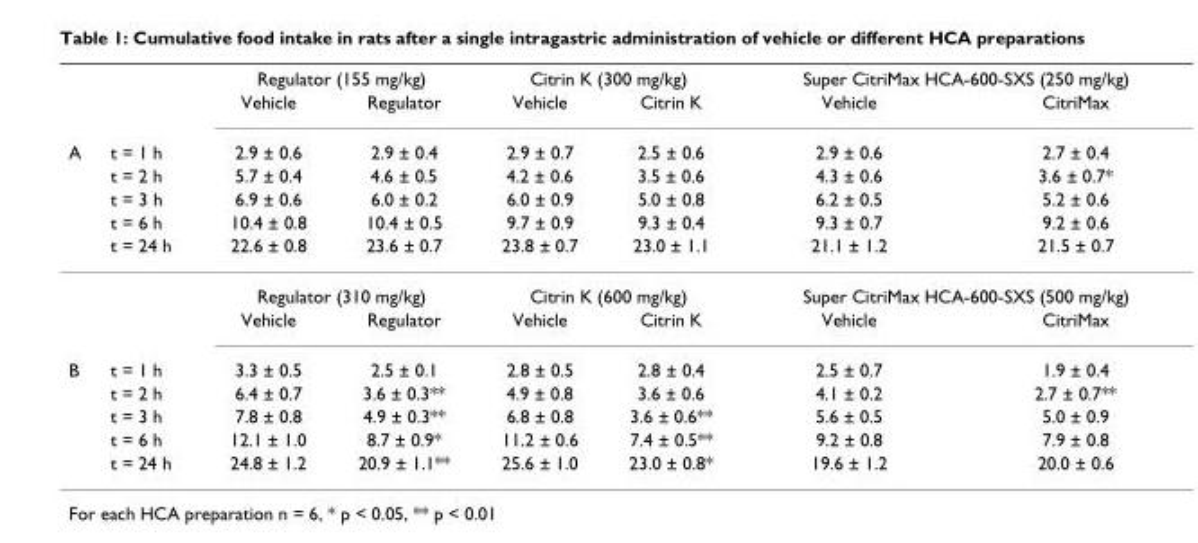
<table><thead><tr><td rowspan="7">A</td><td rowspan="7">t = 1 h t = 2 h t = 3 h t = 6 h t = 24 h</td><td colspan="2">Regulator (155 mg/kg)</td><td colspan="2">Citrin K (300 mg/kg)</td><td colspan="2">Super CitriMax HCA-600-SXS (250 mg/kg)</td></tr><tr><td rowspan="6">Vehicle 2.9 ± 0.6 5.7 ± 0.4 6.9 ± 0.6 10.4 ± 0.8 22.6 ± 0.8</td><td rowspan="6">Regulator 2.9 ± 0.4 4.6 ± 0.5 6.0 ± 0.2 10.4 ± 0.5 23.6 ± 0.7</td><td rowspan="6">Vehicle 2.9 ± 0.7 4.2 ± 0.6 6.0 ± 0.9 9.7 ± 0.9 23.8 ± 0.7</td><td rowspan="6">Citrin K 2.5 ± 0.6 3.5 ± 0.6 5.0 ± 0.8 9.3 ± 0.4 23.0 ± 1.1</td><td rowspan="6">Vehicle 2.9 ± 0.6 4.3 ± 0.6 6.2 ± 0.5 9.3 ± 0.7 21.1 ± 1.2</td><td rowspan="6">CitriMax 2.7 ± 0.4 3.6 ± 0.7* 5.2 ± 0.6 9.2 ± 0.6 21.5 ± 0.7</td></tr><tr></tr><tr></tr><tr></tr><tr></tr><tr></tr></thead><tbody><tr><td></td><td></td><td colspan="2">Regulator (310 mg/kg)</td><td colspan="2">Citrin K (600 mg/kg)</td><td colspan="2">Super CitriMax HCA-600-SXS (500 mg/kg)</td></tr><tr><td></td><td></td><td>Vehicle</td><td>Regulator</td><td>Vehicle</td><td>Citrin K</td><td>Vehicle</td><td>CitriMax</td></tr><tr><td rowspan="5">B</td><td>t = 1 h</td><td>3.3 ± 0.5</td><td>2.5 ± 0.1</td><td>2.8 ± 0.5</td><td>2.8 ± 0.4</td><td>2.5 ± 0.7</td><td>1.9 ± 0.4</td></tr><tr><td>t = 2 h</td><td>6.4 ± 0.7</td><td>3.6 ± 0.3**</td><td>4.9 ± 0.8</td><td>3.6 ± 0.6</td><td>4.1 ± 0.2</td><td>2.7 ± 0.7**</td></tr><tr><td>t = 3 h</td><td>7.8 ± 0.8</td><td>4.9 ± 0.3**</td><td>6.8 ± 0.8</td><td>3.6 ± 0.6**</td><td>5.6 ± 0.5</td><td>5.0 ± 0.9</td></tr><tr><td>t = 6 h</td><td>12.1 ± 1.0</td><td>8.7 ± 0.9*</td><td>11.2 ± 0.6</td><td>7.4 ± 0.5**</td><td>9.2 ± 0.8</td><td>7.9 ± 0.8</td></tr><tr><td>t = 24 h</td><td>24.8 ± 1.2</td><td>20.9 ± 1.1**</td><td>25.6 ± 1.0</td><td>23.0 ± 0.8*</td><td>19.6 ± 1.2</td><td>20.0 ± 0.6</td></tr></tbody></table>